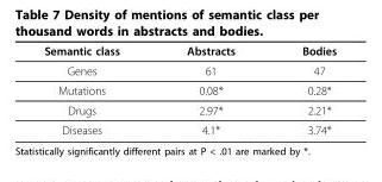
<table><thead><tr><td>Semantic class</td><td>Abstracts</td><td>Bodies</td></tr></thead><tbody><tr><td>Genes</td><td>61</td><td>47</td></tr><tr><td>Mutations</td><td>0.08*</td><td>0.28*</td></tr><tr><td>Drugs</td><td>2.97*</td><td>2.21*</td></tr><tr><td>Diseases</td><td>4.1*</td><td>3.74*</td></tr></tbody></table>